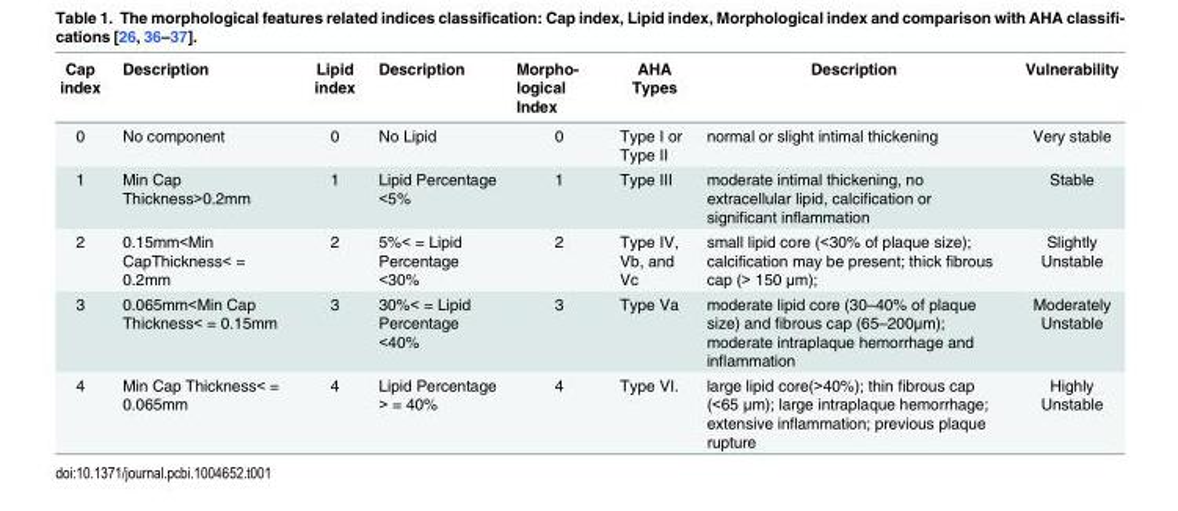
<table><thead><tr><td>Cap index</td><td>Description</td><td>Lipid index</td><td>Description</td><td>Morpho- logical Index</td><td>AHA Types</td><td>Description</td><td>Vulnerability</td></tr></thead><tbody><tr><td>0</td><td>No component</td><td>0</td><td>No Lipid</td><td>0</td><td>Type I or Type II</td><td>normal or slight intimal thickening</td><td>Very stable</td></tr><tr><td>1</td><td>Min Cap Thickness&gt;0.2mm</td><td>1</td><td>Lipid Percentage &lt;5%</td><td>1</td><td>Type III</td><td>moderate intimal thickening, no extracellular lipid, calcification or significant inflammation</td><td>Stable</td></tr><tr><td>2</td><td>0.15mm&lt;Min CapThickness&lt; = 0.2mm</td><td>2</td><td>5%&lt; = Lipid Percentage &lt;30%</td><td>2</td><td>Type IV, Vb, and Vc</td><td>small lipid core (&lt;30% of plaque size); calcification may be present; thick fibrous cap (&gt; 150 μm);</td><td>Slightly Unstable</td></tr><tr><td>3</td><td>0.065mm&lt;Min Cap Thickness&lt; = 0.15mm</td><td>3</td><td>30%&lt; = Lipid Percentage &lt;40%</td><td>3</td><td>Type Va</td><td>moderate lipid core (30–40% of plaque size) and fibrous cap (65–200μm); moderate intraplaque hemorrhage and inflammation</td><td>Moderately Unstable</td></tr><tr><td>4</td><td>Min Cap Thickness&lt; = 0.065mm</td><td>4</td><td>Lipid Percentage &gt; = 40%</td><td>4</td><td>Type VI.</td><td>large lipid core(&gt;40%); thin fibrous cap (&lt;65 μm); large intraplaque hemorrhage; extensive inflammation; previous plaque rupture</td><td>Highly Unstable</td></tr></tbody></table>